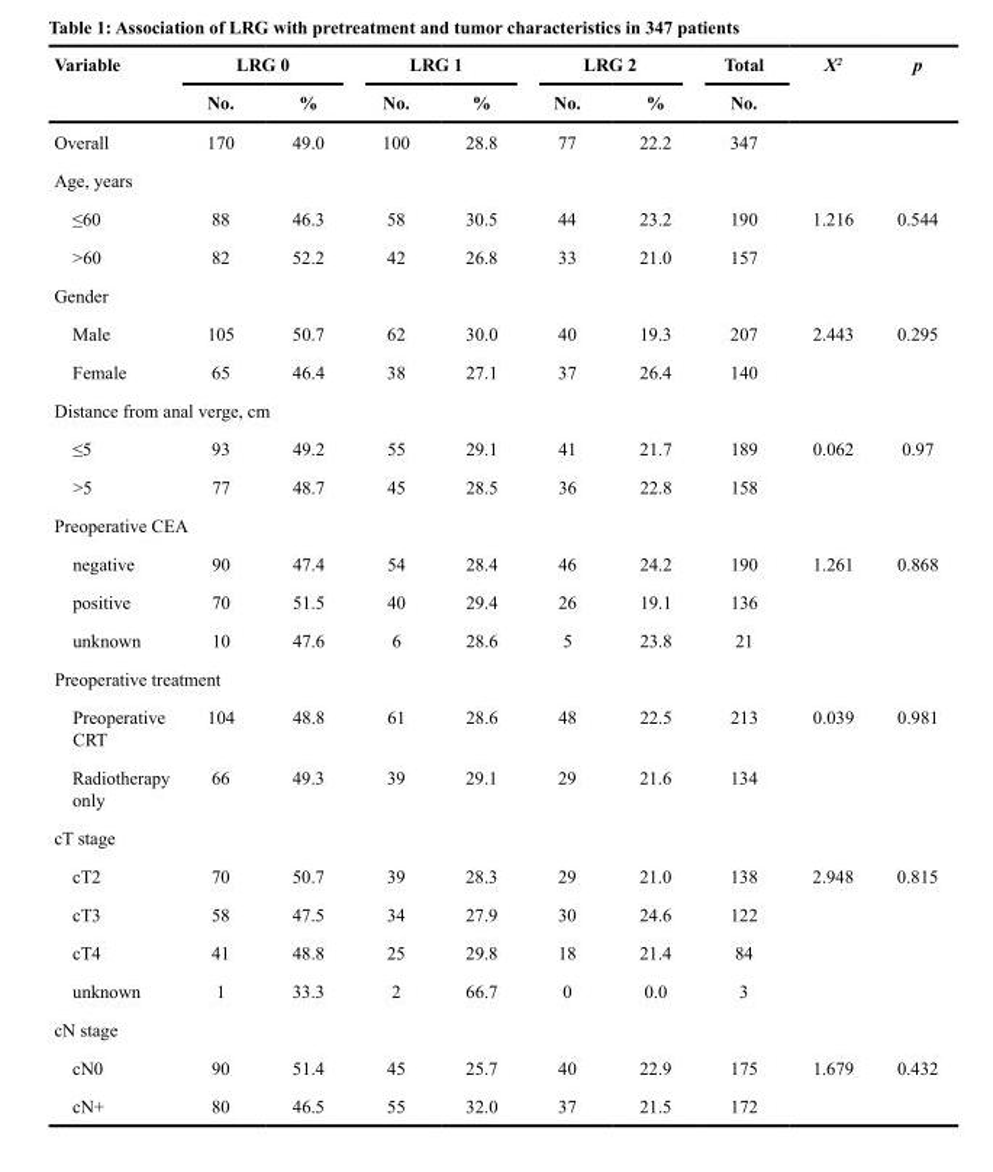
<table><thead><tr><td rowspan="2">Variable</td><td colspan="2">LRG 0</td><td colspan="2">LRG 1</td><td colspan="2">LRG 2</td><td rowspan="2">Total No.</td><td rowspan="2">X <sup>2</sup></td><td rowspan="2">p</td></tr><tr><td>No.</td><td>%</td><td>No.</td><td>%</td><td>No.</td><td>%</td></tr></thead><tbody><tr><td>Overall</td><td>170</td><td>49.0</td><td>100</td><td>28.8</td><td>77</td><td>22.2</td><td>347</td><td></td><td></td></tr><tr><td colspan="10">Age, years</td></tr><tr><td>≤60</td><td>88</td><td>46.3</td><td>58</td><td>30.5</td><td>44</td><td>23.2</td><td>190</td><td>1.216</td><td>0.544</td></tr><tr><td>&gt;60</td><td>82</td><td>52.2</td><td>42</td><td>26.8</td><td>33</td><td>21.0</td><td>157</td><td></td><td></td></tr><tr><td colspan="10">Gender</td></tr><tr><td>Male</td><td>105</td><td>50.7</td><td>62</td><td>30.0</td><td>40</td><td>19.3</td><td>207</td><td>2.443</td><td>0.295</td></tr><tr><td>Female</td><td>65</td><td>46.4</td><td>38</td><td>27.1</td><td>37</td><td>26.4</td><td>140</td><td></td><td></td></tr><tr><td colspan="10">Distance from anal verge, cm</td></tr><tr><td>≤5</td><td>93</td><td>49.2</td><td>55</td><td>29.1</td><td>41</td><td>21.7</td><td>189</td><td>0.062</td><td>0.97</td></tr><tr><td>&gt;5</td><td>77</td><td>48.7</td><td>45</td><td>28.5</td><td>36</td><td>22.8</td><td>158</td><td></td><td></td></tr><tr><td colspan="10">Preoperative CEA</td></tr><tr><td>negative</td><td>90</td><td>47.4</td><td>54</td><td>28.4</td><td>46</td><td>24.2</td><td>190</td><td>1.261</td><td>0.868</td></tr><tr><td>positive</td><td>70</td><td>51.5</td><td>40</td><td>29.4</td><td>26</td><td>19.1</td><td>136</td><td></td><td></td></tr><tr><td>unknown</td><td>10</td><td>47.6</td><td>6</td><td>28.6</td><td>5</td><td>23.8</td><td>21</td><td></td><td></td></tr><tr><td colspan="10">Preoperative treatment</td></tr><tr><td>Preoperative CRT</td><td>104</td><td>48.8</td><td>61</td><td>28.6</td><td>48</td><td>22.5</td><td>213</td><td>0.039</td><td>0.981</td></tr><tr><td>Radiotherapy only</td><td>66</td><td>49.3</td><td>39</td><td>29.1</td><td>29</td><td>21.6</td><td>134</td><td></td><td></td></tr><tr><td colspan="10">cT stage</td></tr><tr><td>cT2</td><td>70</td><td>50.7</td><td>39</td><td>28.3</td><td>29</td><td>21.0</td><td>138</td><td>2.948</td><td>0.815</td></tr><tr><td>cT3</td><td>58</td><td>47.5</td><td>34</td><td>27.9</td><td>30</td><td>24.6</td><td>122</td><td></td><td></td></tr><tr><td>cT4</td><td>41</td><td>48.8</td><td>25</td><td>29.8</td><td>18</td><td>21.4</td><td>84</td><td></td><td></td></tr><tr><td>unknown</td><td>1</td><td>33.3</td><td>2</td><td>66.7</td><td>0</td><td>0.0</td><td>3</td><td></td><td></td></tr><tr><td colspan="10">cN stage</td></tr><tr><td>cN0</td><td>90</td><td>51.4</td><td>45</td><td>25.7</td><td>40</td><td>22.9</td><td>175</td><td>1.679</td><td>0.432</td></tr><tr><td>cN+</td><td>80</td><td>46.5</td><td>55</td><td>32.0</td><td>37</td><td>21.5</td><td>172</td><td></td><td></td></tr></tbody></table>